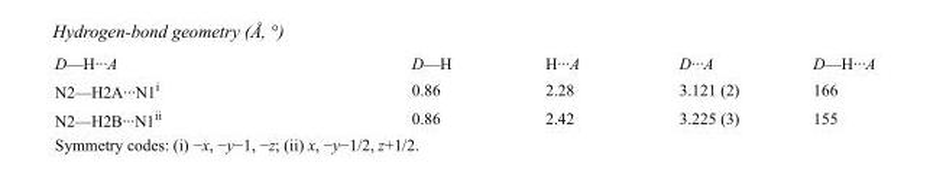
<table><tbody><tr><td>D—H···A</td><td>D—H</td><td>H···A</td><td>D···A</td><td>D—H···A</td></tr><tr><td>N2—H2A···N1<sup>i</sup></td><td>0.86</td><td>2.28</td><td>3.121 (2)</td><td>166</td></tr><tr><td>N2—H2B···N1<sup>ii</sup></td><td>0.86</td><td>2.42</td><td>3.225 (3)</td><td>155</td></tr></tbody></table>